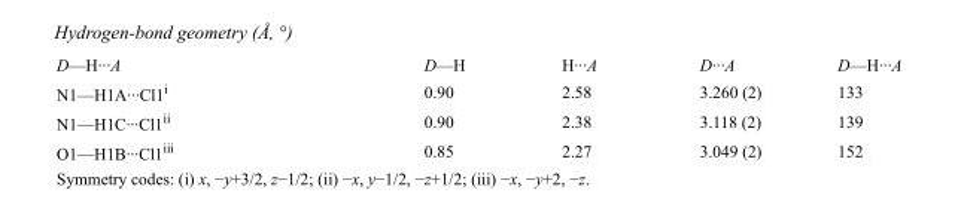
<table><tbody><tr><td>D—H···A</td><td>D—H</td><td>H···A</td><td>D···A</td><td>D—H···A</td></tr><tr><td>N1—H1A···Cl1<sup>i</sup></td><td>0.90</td><td>2.58</td><td>3.260 (2)</td><td>133</td></tr><tr><td>N1—H1C···Cl1<sup>ii</sup></td><td>0.90</td><td>2.38</td><td>3.118 (2)</td><td>139</td></tr><tr><td>O1—H1B···Cl1<sup>iii</sup></td><td>0.85</td><td>2.27</td><td>3.049 (2)</td><td>152</td></tr></tbody></table>